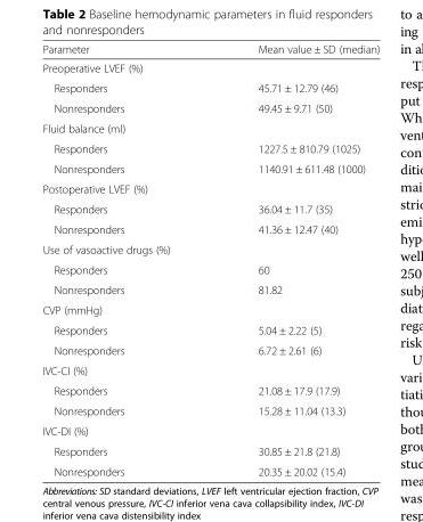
<table><thead><tr><td>Parameter</td><td>Mean value ± SD (median)</td></tr></thead><tbody><tr><td colspan="2">Preoperative LVEF (%)</td></tr><tr><td>Responders</td><td>45.71 ± 12.79 (46)</td></tr><tr><td>Nonresponders</td><td>49.45 ± 9.71 (50)</td></tr><tr><td colspan="2">Fluid balance (ml)</td></tr><tr><td>Responders</td><td>1227.5 ± 810.79 (1025)</td></tr><tr><td>Nonresponders</td><td>1140.91 ± 611.48 (1000)</td></tr><tr><td colspan="2">Postoperative LVEF (%)</td></tr><tr><td>Responders</td><td>36.04 ± 11.7 (35)</td></tr><tr><td>Nonresponders</td><td>41.36 ± 12.47 (40)</td></tr><tr><td colspan="2">Use of vasoactive drugs (%)</td></tr><tr><td>Responders</td><td>60</td></tr><tr><td>Nonresponders</td><td>81.82</td></tr><tr><td colspan="2">CVP (mmHg)</td></tr><tr><td>Responders</td><td>5.04 ± 2.22 (5)</td></tr><tr><td>Nonresponders</td><td>6.72 ± 2.61 (6)</td></tr><tr><td colspan="2">IVC-CI (%)</td></tr><tr><td>Responders</td><td>21.08 ± 17.9 (17.9)</td></tr><tr><td>Nonresponders</td><td>15.28 ± 11.04 (13.3)</td></tr><tr><td colspan="2">IVC-DI (%)</td></tr><tr><td>Responders</td><td>30.85 ± 21.8 (21.8)</td></tr><tr><td>Nonresponders</td><td>20.35 ± 20.02 (15.4)</td></tr></tbody></table>